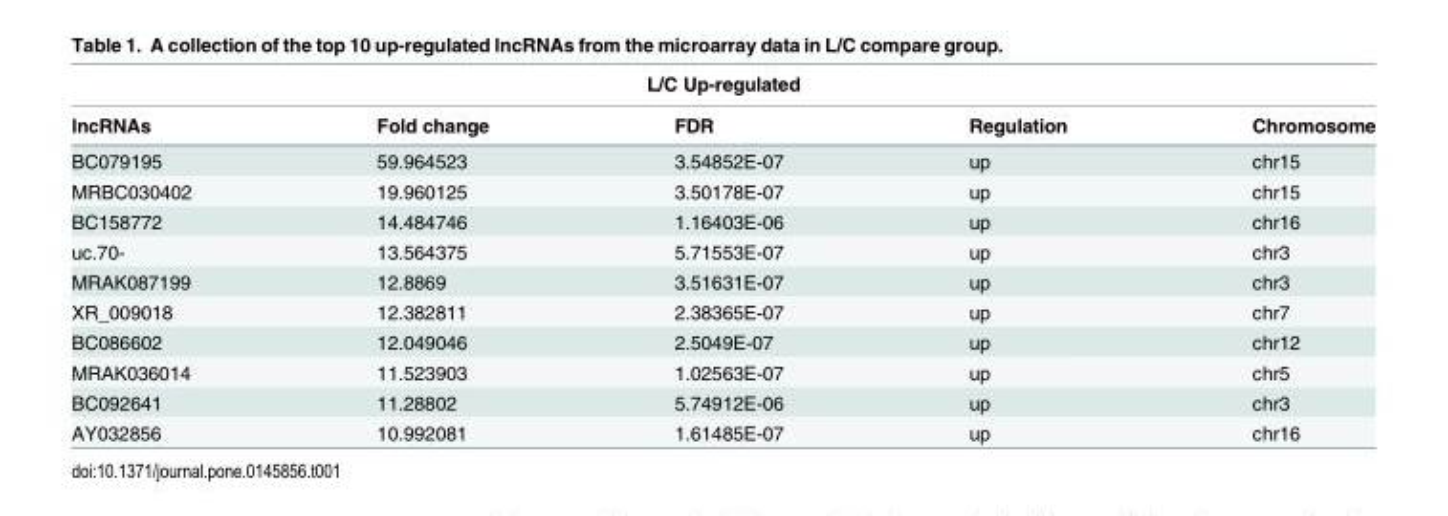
<table><thead><tr><td colspan="5">L/C Up-regulated</td></tr><tr><td>lncRNAs</td><td>Fold change</td><td>FDR</td><td>Regulation</td><td>Chromosome</td></tr></thead><tbody><tr><td>BC079195</td><td>59.964523</td><td>3.54852E-07</td><td>up</td><td>chr15</td></tr><tr><td>MRBC030402</td><td>19.960125</td><td>3.50178E-07</td><td>up</td><td>chr15</td></tr><tr><td>BC158772</td><td>14.484746</td><td>1.16403E-06</td><td>up</td><td>chr16</td></tr><tr><td>uc.70-</td><td>13.564375</td><td>5.71553E-07</td><td>up</td><td>chr3</td></tr><tr><td>MRAK087199</td><td>12.8869</td><td>3.51631E-07</td><td>up</td><td>chr3</td></tr><tr><td>XR_009018</td><td>12.382811</td><td>2.38365E-07</td><td>up</td><td>chr7</td></tr><tr><td>BC086602</td><td>12.049046</td><td>2.5049E-07</td><td>up</td><td>chr12</td></tr><tr><td>MRAK036014</td><td>11.523903</td><td>1.02563E-07</td><td>up</td><td>chr5</td></tr><tr><td>BC092641</td><td>11.28802</td><td>5.74912E-06</td><td>up</td><td>chr3</td></tr><tr><td>AY032856</td><td>10.992081</td><td>1.61485E-07</td><td>up</td><td>chr16</td></tr></tbody></table>